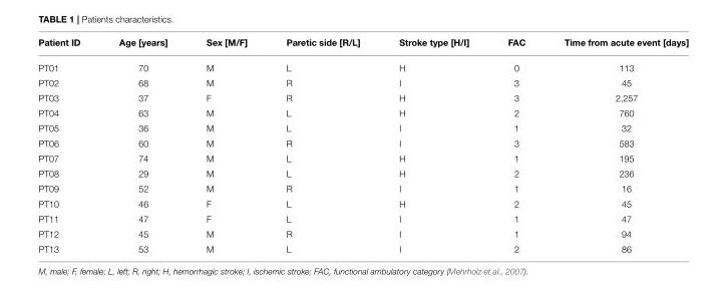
<table><thead><tr><td>Patient ID</td><td>Age [years]</td><td>Sex [M/F]</td><td>Paretic side [R/L]</td><td>Stroke type [H/I]</td><td>FAC</td><td>Time from acute event [days]</td></tr></thead><tbody><tr><td>PT01</td><td>70</td><td>M</td><td>L</td><td>H</td><td>0</td><td>113</td></tr><tr><td>PT02</td><td>68</td><td>M</td><td>R</td><td>I</td><td>3</td><td>45</td></tr><tr><td>PT03</td><td>37</td><td>F</td><td>R</td><td>H</td><td>3</td><td>2,257</td></tr><tr><td>PT04</td><td>63</td><td>M</td><td>L</td><td>H</td><td>2</td><td>760</td></tr><tr><td>PT05</td><td>36</td><td>M</td><td>L</td><td>I</td><td>1</td><td>32</td></tr><tr><td>PT06</td><td>60</td><td>M</td><td>R</td><td>I</td><td>3</td><td>583</td></tr><tr><td>PT07</td><td>74</td><td>M</td><td>L</td><td>H</td><td>1</td><td>195</td></tr><tr><td>PT08</td><td>29</td><td>M</td><td>L</td><td>H</td><td>2</td><td>236</td></tr><tr><td>PT09</td><td>52</td><td>M</td><td>R</td><td>I</td><td>1</td><td>16</td></tr><tr><td>PT10</td><td>46</td><td>F</td><td>L</td><td>H</td><td>2</td><td>45</td></tr><tr><td>PT11</td><td>47</td><td>F</td><td>L</td><td>I</td><td>1</td><td>47</td></tr><tr><td>PT12</td><td>45</td><td>M</td><td>R</td><td>I</td><td>1</td><td>94</td></tr><tr><td>PT13</td><td>53</td><td>M</td><td>L</td><td>I</td><td>2</td><td>86</td></tr></tbody></table>